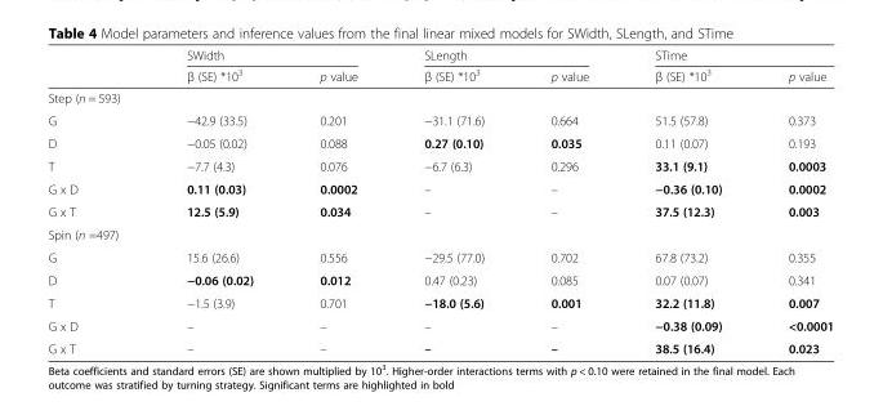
<table><thead><tr><td rowspan="2"></td><td colspan="2">SWidth</td><td colspan="2">SLength</td><td colspan="2">STime</td></tr><tr><td>β (SE) *10<sup>3</sup></td><td>p value</td><td>β (SE) *10<sup>3</sup></td><td>p value</td><td>β (SE) *10<sup>3</sup></td><td>p value</td></tr></thead><tbody><tr><td colspan="7">Step (n = 593)</td></tr><tr><td>G</td><td>−42.9 (33.5)</td><td>0.201</td><td>−31.1 (71.6)</td><td>0.664</td><td>51.5 (57.8)</td><td>0.373</td></tr><tr><td>D</td><td>−0.05 (0.02)</td><td>0.088</td><td>0.27 (0.10)</td><td>0.035</td><td>0.11 (0.07)</td><td>0.193</td></tr><tr><td>T</td><td>−7.7 (4.3)</td><td>0.076</td><td>−6.7 (6.3)</td><td>0.296</td><td>33.1 (9.1)</td><td>0.0003</td></tr><tr><td>G x D</td><td>0.11 (0.03)</td><td>0.0002</td><td>–</td><td>–</td><td>−0.36 (0.10)</td><td>0.0002</td></tr><tr><td>G x T</td><td>12.5 (5.9)</td><td>0.034</td><td>–</td><td>–</td><td>37.5 (12.3)</td><td>0.003</td></tr><tr><td colspan="7">Spin (n =497)</td></tr><tr><td>G</td><td>15.6 (26.6)</td><td>0.556</td><td>−29.5 (77.0)</td><td>0.702</td><td>67.8 (73.2)</td><td>0.355</td></tr><tr><td>D</td><td>−0.06 (0.02)</td><td>0.012</td><td>0.47 (0.23)</td><td>0.085</td><td>0.07 (0.07)</td><td>0.341</td></tr><tr><td>T</td><td>−1.5 (3.9)</td><td>0.701</td><td>−18.0 (5.6)</td><td>0.001</td><td>32.2 (11.8)</td><td>0.007</td></tr><tr><td>G x D</td><td>–</td><td>–</td><td>–</td><td>–</td><td>−0.38 (0.09)</td><td>&lt;0.0001</td></tr><tr><td>G x T</td><td>–</td><td>–</td><td>–</td><td>–</td><td>38.5 (16.4)</td><td>0.023</td></tr></tbody></table>